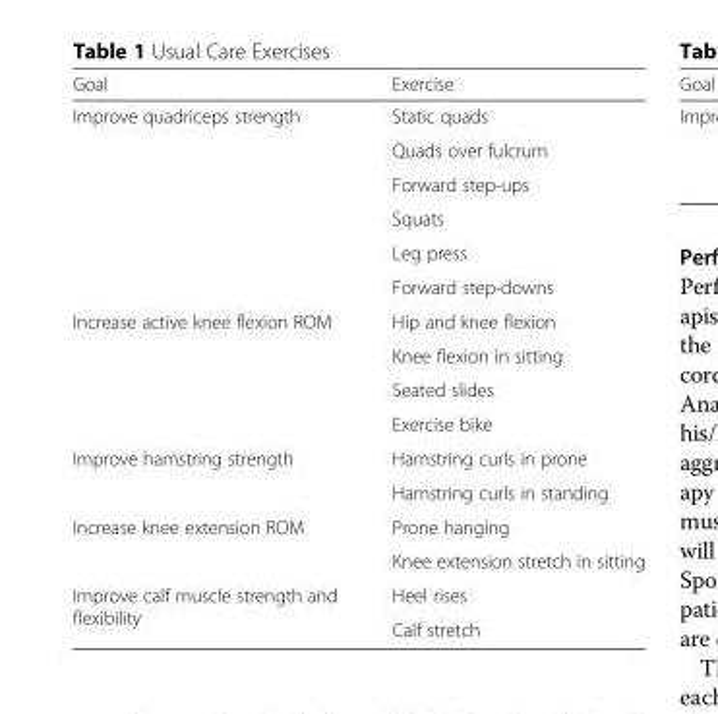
<table><thead><tr><td>Goal</td><td>Exercise</td></tr></thead><tbody><tr><td rowspan="6">Improve quadriceps strength</td><td>Static quads</td></tr><tr><td>Quads over fulcrum</td></tr><tr><td>Forward step-ups</td></tr><tr><td>Squats</td></tr><tr><td>Leg press</td></tr><tr><td>Forward step-downs</td></tr><tr><td rowspan="4">Increase active knee flexion ROM</td><td>Hip and knee flexion</td></tr><tr><td>Knee flexion in sitting</td></tr><tr><td>Seated slides</td></tr><tr><td>Exercise bike</td></tr><tr><td rowspan="2">Improve hamstring strength</td><td>Hamstring curls in prone</td></tr><tr><td>Hamstring curls in standing</td></tr><tr><td rowspan="2">Increase knee extension ROM</td><td>Prone hanging</td></tr><tr><td>Knee extension stretch in sitting</td></tr><tr><td rowspan="2">Improve calf muscle strength and flexibility</td><td>Heel rises</td></tr><tr><td>Calf stretch</td></tr></tbody></table>